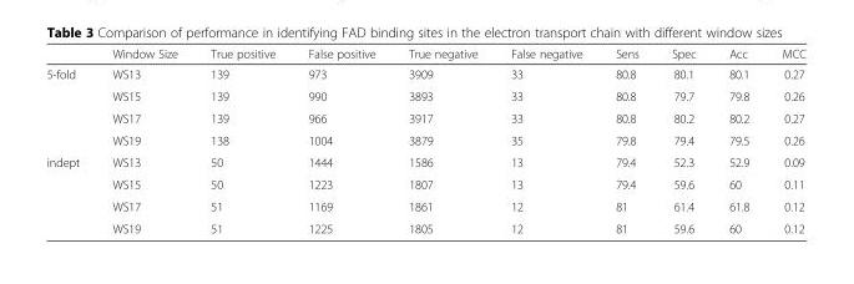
<table><thead><tr><td></td><td>Window Size</td><td>True positive</td><td>False positive</td><td>True negative</td><td>False negative</td><td>Sens</td><td>Spec</td><td>Acc</td><td>MCC</td></tr></thead><tbody><tr><td rowspan="4">5-fold</td><td>WS13</td><td>139</td><td>973</td><td>3909</td><td>33</td><td>80.8</td><td>80.1</td><td>80.1</td><td>0.27</td></tr><tr><td>WS15</td><td>139</td><td>990</td><td>3893</td><td>33</td><td>80.8</td><td>79.7</td><td>79.8</td><td>0.26</td></tr><tr><td>WS17</td><td>139</td><td>966</td><td>3917</td><td>33</td><td>80.8</td><td>80.2</td><td>80.2</td><td>0.27</td></tr><tr><td>WS19</td><td>138</td><td>1004</td><td>3879</td><td>35</td><td>79.8</td><td>79.4</td><td>79.5</td><td>0.26</td></tr><tr><td rowspan="4">indept</td><td>WS13</td><td>50</td><td>1444</td><td>1586</td><td>13</td><td>79.4</td><td>52.3</td><td>52.9</td><td>0.09</td></tr><tr><td>WS15</td><td>50</td><td>1223</td><td>1807</td><td>13</td><td>79.4</td><td>59.6</td><td>60</td><td>0.11</td></tr><tr><td>WS17</td><td>51</td><td>1169</td><td>1861</td><td>12</td><td>81</td><td>61.4</td><td>61.8</td><td>0.12</td></tr><tr><td>WS19</td><td>51</td><td>1225</td><td>1805</td><td>12</td><td>81</td><td>59.6</td><td>60</td><td>0.12</td></tr></tbody></table>